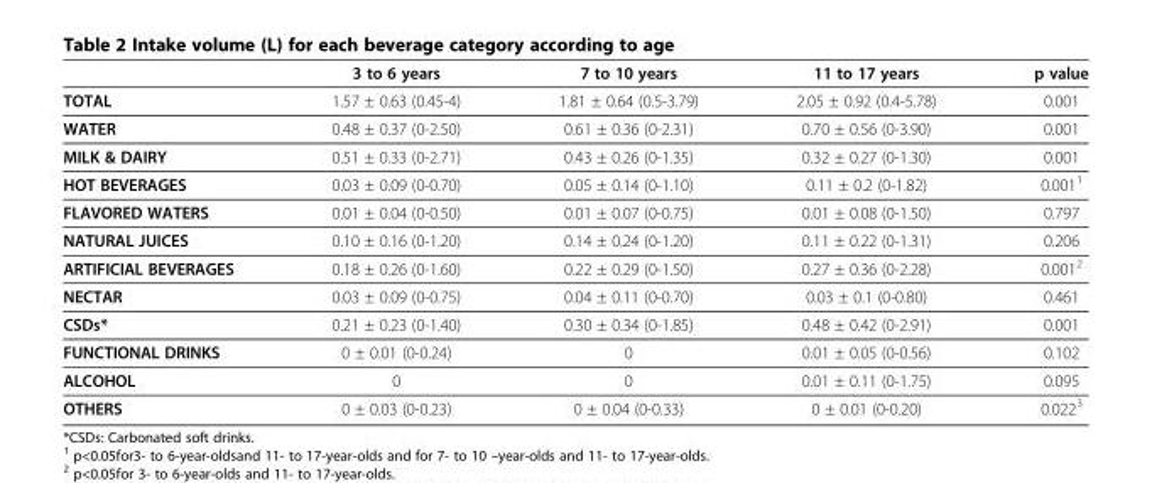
<table><thead><tr><td></td><td>3 to 6 years</td><td>7 to 10 years</td><td>11 to 17 years</td><td>p value</td></tr></thead><tbody><tr><td>TOTAL</td><td>1.57 ± 0.63 (0.45-4)</td><td>1.81 ± 0.64 (0.5-3.79)</td><td>2.05 ± 0.92 (0.4-5.78)</td><td>0.001</td></tr><tr><td>WATER</td><td>0.48 ± 0.37 (0-2.50)</td><td>0.61 ± 0.36 (0-2.31)</td><td>0.70 ± 0.56 (0-3.90)</td><td>0.001</td></tr><tr><td>MILK &amp; DAIRY</td><td>0.51 ± 0.33 (0-2.71)</td><td>0.43 ± 0.26 (0-1.35)</td><td>0.32 ± 0.27 (0-1.30)</td><td>0.001</td></tr><tr><td>HOT BEVERAGES</td><td>0.03 ± 0.09 (0-0.70)</td><td>0.05 ± 0.14 (0-1.10)</td><td>0.11 ± 0.2 (0-1.82)</td><td>0.001<sup>1</sup></td></tr><tr><td>FLAVORED WATERS</td><td>0.01 ± 0.04 (0-0.50)</td><td>0.01 ± 0.07 (0-0.75)</td><td>0.01 ± 0.08 (0-1.50)</td><td>0.797</td></tr><tr><td>NATURAL JUICES</td><td>0.10 ± 0.16 (0-1.20)</td><td>0.14 ± 0.24 (0-1.20)</td><td>0.11 ± 0.22 (0-1.31)</td><td>0.206</td></tr><tr><td>ARTIFICIAL BEVERAGES</td><td>0.18 ± 0.26 (0-1.60)</td><td>0.22 ± 0.29 (0-1.50)</td><td>0.27 ± 0.36 (0-2.28)</td><td>0.001<sup>2</sup></td></tr><tr><td>NECTAR</td><td>0.03 ± 0.09 (0-0.75)</td><td>0.04 ± 0.11 (0-0.70)</td><td>0.03 ± 0.1 (0-0.80)</td><td>0.461</td></tr><tr><td>CSDs*</td><td>0.21 ± 0.23 (0-1.40)</td><td>0.30 ± 0.34 (0-1.85)</td><td>0.48 ± 0.42 (0-2.91)</td><td>0.001</td></tr><tr><td>FUNCTIONAL DRINKS</td><td>0 ± 0.01 (0-0.24)</td><td>0</td><td>0.01 ± 0.05 (0-0.56)</td><td>0.102</td></tr><tr><td>ALCOHOL</td><td>0</td><td>0</td><td>0.01 ± 0.11 (0-1.75)</td><td>0.095</td></tr><tr><td>OTHERS</td><td>0 ± 0.03 (0-0.23)</td><td>0 ± 0.04 (0-0.33)</td><td>0 ± 0.01 (0-0.20)</td><td>0.022<sup>3</sup></td></tr></tbody></table>